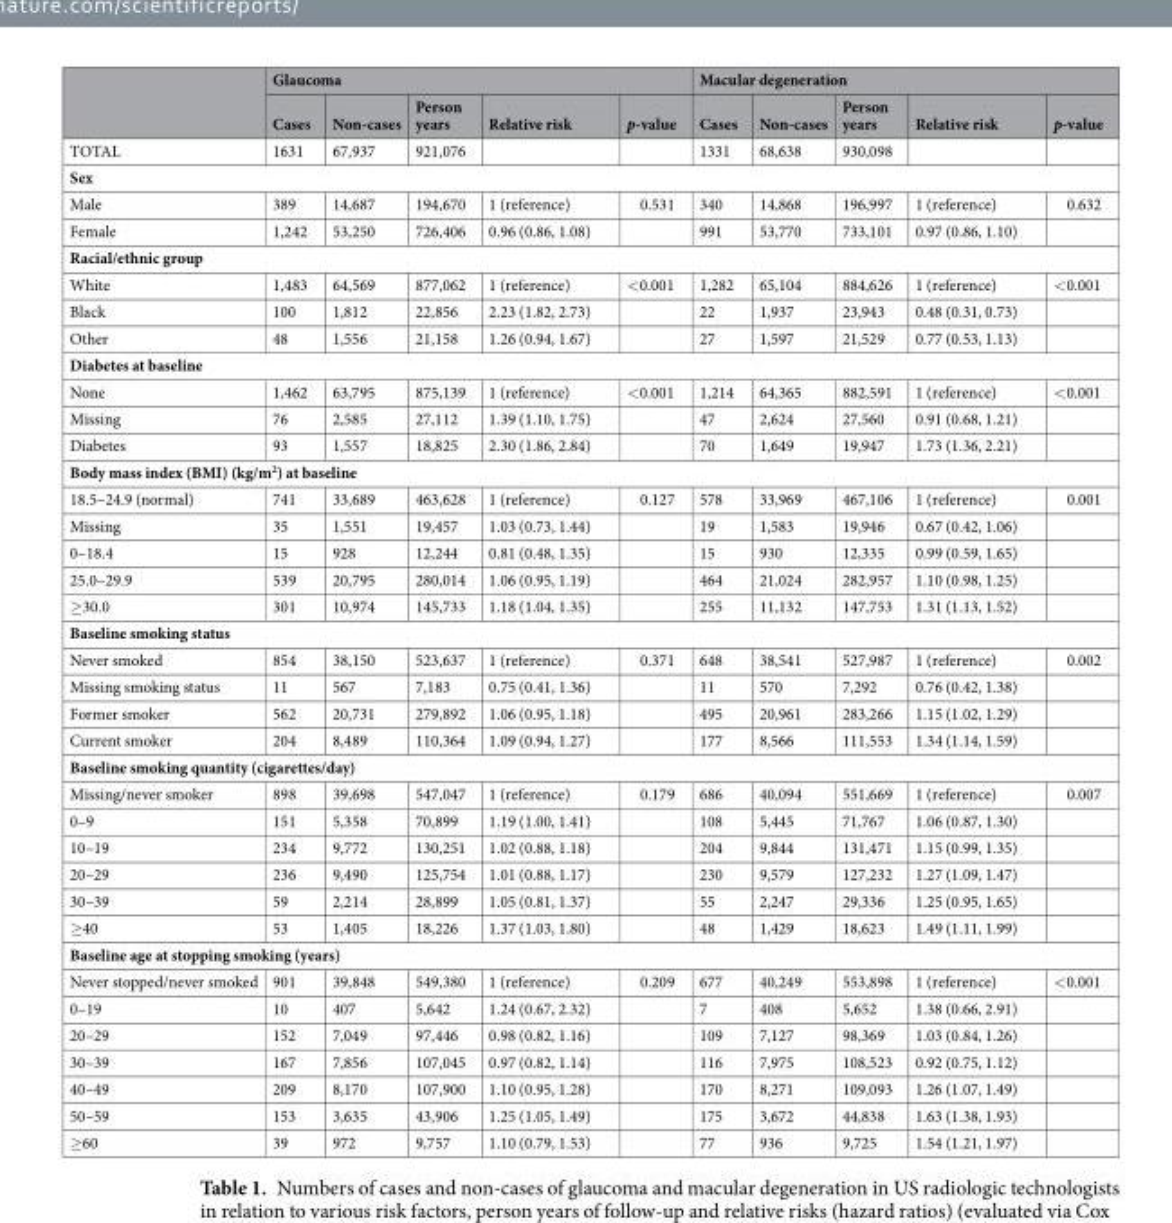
<table><thead><tr><td rowspan="2"></td><td colspan="5">Glaucoma</td><td colspan="5">Macular degeneration</td></tr><tr><td>Cases</td><td>Non-cases</td><td>Person years</td><td>Relative risk</td><td>p-value</td><td>Cases</td><td>Non-cases</td><td>Person years</td><td>Relative risk</td><td>p-value</td></tr></thead><tbody><tr><td>TOTAL</td><td>1631</td><td>67,937</td><td>921,076</td><td></td><td></td><td>1331</td><td>68,638</td><td>930,098</td><td></td><td></td></tr><tr><td colspan="11">Sex</td></tr><tr><td>Male</td><td>389</td><td>14,687</td><td>194,670</td><td>1 (reference)</td><td>0.531</td><td>340</td><td>14,868</td><td>196,997</td><td>1 (reference)</td><td>0.632</td></tr><tr><td>Female</td><td>1,242</td><td>53,250</td><td>726,406</td><td>0.96 (0.86, 1.08)</td><td></td><td>991</td><td>53,770</td><td>733,101</td><td>0.97 (0.86, 1.10)</td><td></td></tr><tr><td colspan="11">Racial/ethnic group</td></tr><tr><td>White</td><td>1,483</td><td>64,569</td><td>877,062</td><td>1 (reference)</td><td>&lt;0.001</td><td>1,282</td><td>65,104</td><td>884,626</td><td>1 (reference)</td><td>&lt;0.001</td></tr><tr><td>Black</td><td>100</td><td>1,812</td><td>22,856</td><td>2.23 (1.82, 2.73)</td><td></td><td>22</td><td>1,937</td><td>23,943</td><td>0.48 (0.31, 0.73)</td><td></td></tr><tr><td>Other</td><td>48</td><td>1,556</td><td>21,158</td><td>1.26 (0.94, 1.67)</td><td></td><td>27</td><td>1,597</td><td>21,529</td><td>0.77 (0.53, 1.13)</td><td></td></tr><tr><td colspan="11">Diabetes at baseline</td></tr><tr><td>None</td><td>1,462</td><td>63,795</td><td>875,139</td><td>1 (reference)</td><td>&lt;0.001</td><td>1,214</td><td>64,365</td><td>882,591</td><td>1 (reference)</td><td>&lt;0.001</td></tr><tr><td>Missing</td><td>76</td><td>2,585</td><td>27,112</td><td>1.39 (1.10, 1.75)</td><td></td><td>47</td><td>2,624</td><td>27,560</td><td>0.91 (0.68, 1.21)</td><td></td></tr><tr><td>Diabetes</td><td>93</td><td>1,557</td><td>18,825</td><td>2.30 (1.86, 2.84)</td><td></td><td>70</td><td>1,649</td><td>19,947</td><td>1.73 (1.36, 2.21)</td><td></td></tr><tr><td colspan="11">Body mass index (BMI) (kg/m<sup>2</sup>) at baseline</td></tr><tr><td>18.5–24.9 (normal)</td><td>741</td><td>33,689</td><td>463,628</td><td>1 (reference)</td><td>0.127</td><td>578</td><td>33,969</td><td>467,106</td><td>1 (reference)</td><td>0.001</td></tr><tr><td>Missing</td><td>35</td><td>1,551</td><td>19,457</td><td>1.03 (0.73, 1.44)</td><td></td><td>19</td><td>1,583</td><td>19,946</td><td>0.67 (0.42, 1.06)</td><td></td></tr><tr><td>0–18.4</td><td>15</td><td>928</td><td>12,244</td><td>0.81 (0.48, 1.35)</td><td></td><td>15</td><td>930</td><td>12,335</td><td>0.99 (0.59, 1.65)</td><td></td></tr><tr><td>25.0–29.9</td><td>539</td><td>20,795</td><td>280,014</td><td>1.06 (0.95, 1.19)</td><td></td><td>464</td><td>21,024</td><td>282,957</td><td>1.10 (0.98, 1.25)</td><td></td></tr><tr><td>≥30.0</td><td>301</td><td>10,974</td><td>145,733</td><td>1.18 (1.04, 1.35)</td><td></td><td>255</td><td>11,132</td><td>147,753</td><td>1.31 (1.13, 1.52)</td><td></td></tr><tr><td colspan="11">Baseline smoking status</td></tr><tr><td>Never smoked</td><td>854</td><td>38,150</td><td>523,637</td><td>1 (reference)</td><td>0.371</td><td>648</td><td>38,541</td><td>527,987</td><td>1 (reference)</td><td>0.002</td></tr><tr><td>Missing smoking status</td><td>11</td><td>567</td><td>7,183</td><td>0.75 (0.41, 1.36)</td><td></td><td>11</td><td>570</td><td>7,292</td><td>0.76 (0.42, 1.38)</td><td></td></tr><tr><td>Former smoker</td><td>562</td><td>20,731</td><td>279,892</td><td>1.06 (0.95, 1.18)</td><td></td><td>495</td><td>20,961</td><td>283,266</td><td>1.15 (1.02, 1.29)</td><td></td></tr><tr><td>Current smoker</td><td>204</td><td>8,489</td><td>110,364</td><td>1.09 (0.94, 1.27)</td><td></td><td>177</td><td>8,566</td><td>111,553</td><td>1.34 (1.14, 1.59)</td><td></td></tr><tr><td colspan="11">Baseline smoking quantity (cigarettes/day)</td></tr><tr><td>Missing/never smoker</td><td>898</td><td>39,698</td><td>547,047</td><td>1 (reference)</td><td>0.179</td><td>686</td><td>40,094</td><td>551,669</td><td>1 (reference)</td><td>0.007</td></tr><tr><td>0–9</td><td>151</td><td>5,358</td><td>70,899</td><td>1.19 (1.00, 1.41)</td><td></td><td>108</td><td>5,445</td><td>71,767</td><td>1.06 (0.87, 1.30)</td><td></td></tr><tr><td>10–19</td><td>234</td><td>9,772</td><td>130,251</td><td>1.02 (0.88, 1.18)</td><td></td><td>204</td><td>9,844</td><td>131,471</td><td>1.15 (0.99, 1.35)</td><td></td></tr><tr><td>20–29</td><td>236</td><td>9,490</td><td>125,754</td><td>1.01 (0.88, 1.17)</td><td></td><td>230</td><td>9,579</td><td>127,232</td><td>1.27 (1.09, 1.47)</td><td></td></tr><tr><td>30–39</td><td>59</td><td>2,214</td><td>28,899</td><td>1.05 (0.81, 1.37)</td><td></td><td>55</td><td>2,247</td><td>29,336</td><td>1.25 (0.95, 1.65)</td><td></td></tr><tr><td>≥40</td><td>53</td><td>1,405</td><td>18,226</td><td>1.37 (1.03, 1.80)</td><td></td><td>48</td><td>1,429</td><td>18,623</td><td>1.49 (1.11, 1.99)</td><td></td></tr><tr><td colspan="11">Baseline age at stopping smoking (years)</td></tr><tr><td>Never stopped/never smoked</td><td>901</td><td>39,848</td><td>549,380</td><td>1 (reference)</td><td>0.209</td><td>677</td><td>40,249</td><td>553,898</td><td>1 (reference)</td><td>&lt;0.001</td></tr><tr><td>0–19</td><td>10</td><td>407</td><td>5,642</td><td>1.24 (0.67, 2.32)</td><td></td><td>7</td><td>408</td><td>5,652</td><td>1.38 (0.66, 2.91)</td><td></td></tr><tr><td>20–29</td><td>152</td><td>7,049</td><td>97,446</td><td>0.98 (0.82, 1.16)</td><td></td><td>109</td><td>7,127</td><td>98,369</td><td>1.03 (0.84, 1.26)</td><td></td></tr><tr><td>30–39</td><td>167</td><td>7,856</td><td>107,045</td><td>0.97 (0.82, 1.14)</td><td></td><td>116</td><td>7,975</td><td>108,523</td><td>0.92 (0.75, 1.12)</td><td></td></tr><tr><td>40–49</td><td>209</td><td>8,170</td><td>107,900</td><td>1.10 (0.95, 1.28)</td><td></td><td>170</td><td>8,271</td><td>109,093</td><td>1.26 (1.07, 1.49)</td><td></td></tr><tr><td>50–59</td><td>153</td><td>3,635</td><td>43,906</td><td>1.25 (1.05, 1.49)</td><td></td><td>175</td><td>3,672</td><td>44,838</td><td>1.63 (1.38, 1.93)</td><td></td></tr><tr><td>≥60</td><td>39</td><td>972</td><td>9,757</td><td>1.10 (0.79, 1.53)</td><td></td><td>77</td><td>936</td><td>9,725</td><td>1.54 (1.21, 1.97)</td><td></td></tr></tbody></table>